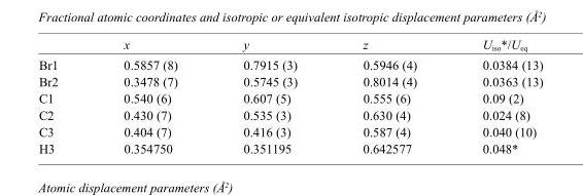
<table><thead><tr><td></td><td>x</td><td>y</td><td>z</td><td>U<sub>iso</sub>*/U<sub>eq</sub></td></tr></thead><tbody><tr><td>Br1</td><td>0.5857 (8)</td><td>0.7915 (3)</td><td>0.5946 (4)</td><td>0.0384 (13)</td></tr><tr><td>Br2</td><td>0.3478 (7)</td><td>0.5745 (3)</td><td>0.8014 (4)</td><td>0.0363 (13)</td></tr><tr><td>C1</td><td>0.540 (6)</td><td>0.607 (5)</td><td>0.555 (6)</td><td>0.09 (2)</td></tr><tr><td>C2</td><td>0.430 (7)</td><td>0.535 (3)</td><td>0.630 (4)</td><td>0.024 (8)</td></tr><tr><td>C3</td><td>0.404 (7)</td><td>0.416 (3)</td><td>0.587 (4)</td><td>0.040 (10)</td></tr><tr><td>H3</td><td>0.354750</td><td>0.351195</td><td>0.642577</td><td>0.048*</td></tr></tbody></table>